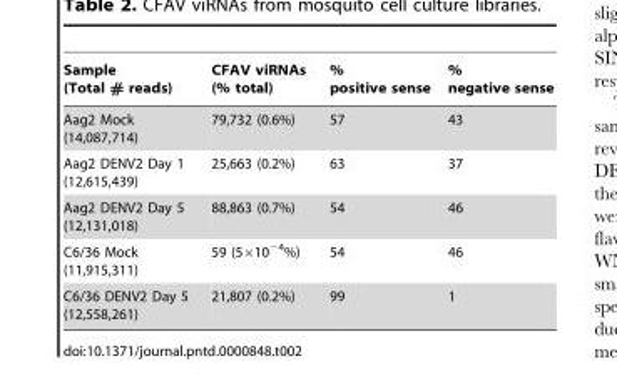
<table><thead><tr><td>Sample (Total # reads)</td><td>CFAV viRNAs (% total)</td><td>% positive sense</td><td>% negative sense</td></tr></thead><tbody><tr><td>Aag2 Mock (14,087,714)</td><td>79,732 (0.6%)</td><td>57</td><td>43</td></tr><tr><td>Aag2 DENV2 Day 1 (12,615,439)</td><td>25,663 (0.2%)</td><td>63</td><td>37</td></tr><tr><td>Aag2 DENV2 Day 5 (12,131,018)</td><td>88,863 (0.7%)</td><td>54</td><td>46</td></tr><tr><td>C6/36 Mock (11,915,311)</td><td>59 (5×10<sup>−4</sup>%)</td><td>54</td><td>46</td></tr><tr><td>C6/36 DENV2 Day 5 (12,558,261)</td><td>21,807 (0.2%)</td><td>99</td><td>1</td></tr></tbody></table>